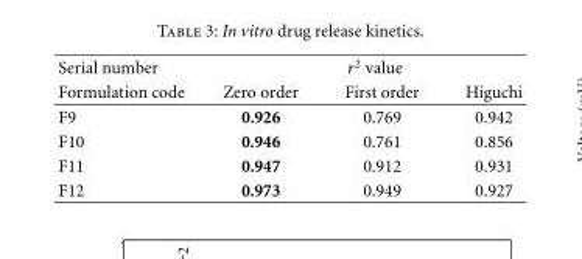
<table><thead><tr><td rowspan="2">Serial number Formulation code</td><td colspan="3">r<sup>2</sup> value</td></tr><tr><td>Zero order</td><td>First order</td><td>Higuchi</td></tr></thead><tbody><tr><td>F9</td><td>0.926</td><td>0.769</td><td>0.942</td></tr><tr><td>F10</td><td>0.946</td><td>0.761</td><td>0.856</td></tr><tr><td>F11</td><td>0.947</td><td>0.912</td><td>0.931</td></tr><tr><td>F12</td><td>0.973</td><td>0.949</td><td>0.927</td></tr></tbody></table>